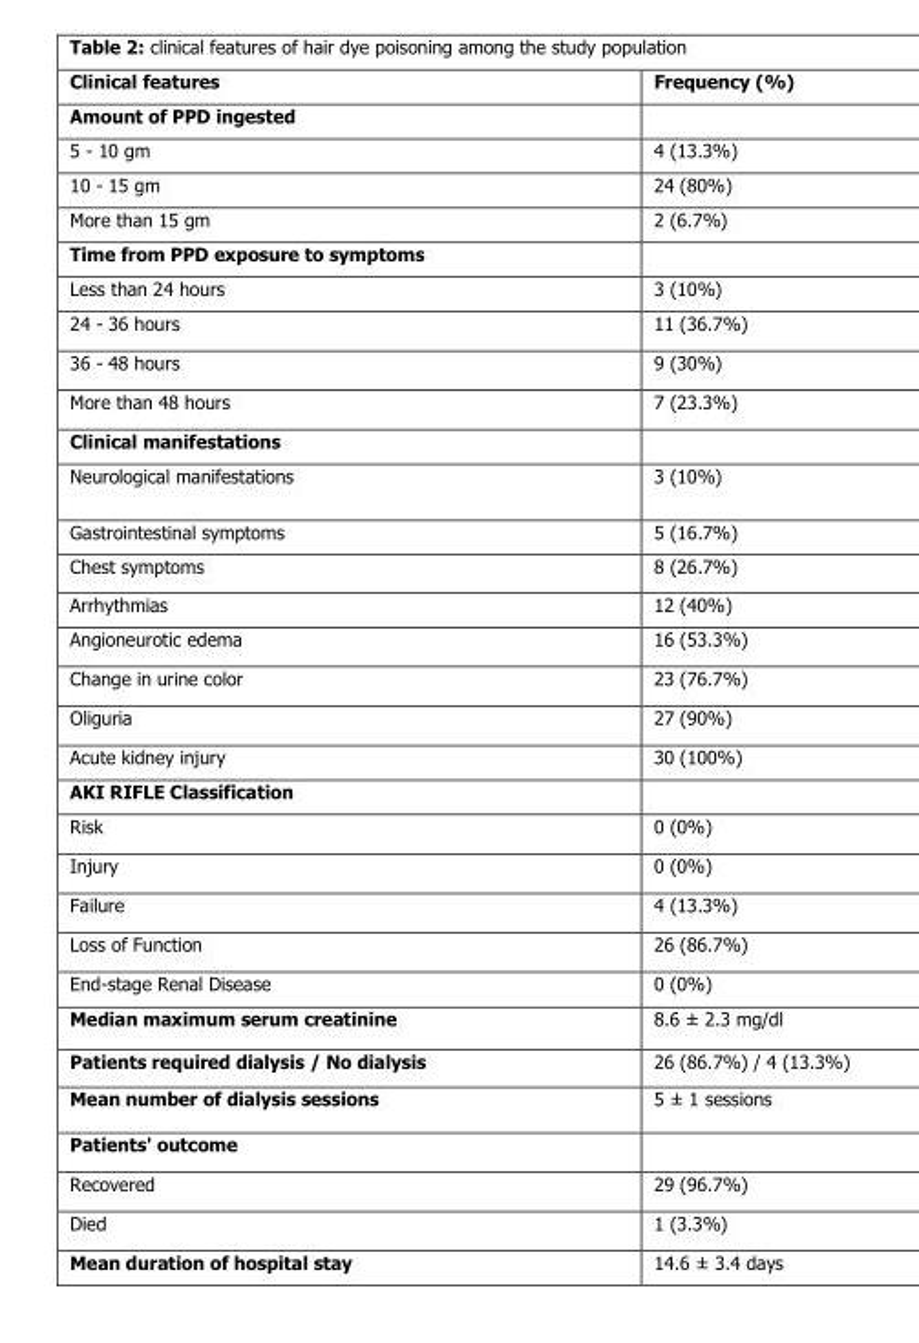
<table><thead><tr><td>Clinical features</td><td>Frequency (%)</td></tr></thead><tbody><tr><td colspan="2">Amount of PPD ingested</td></tr><tr><td>5 - 10 gm</td><td>4 (13.3%)</td></tr><tr><td>10 - 15 gm</td><td>24 (80%)</td></tr><tr><td>More than 15 gm</td><td>2 (6.7%)</td></tr><tr><td colspan="2">Time from PPD exposure to symptoms</td></tr><tr><td>Less than 24 hours</td><td>3 (10%)</td></tr><tr><td>24 - 36 hours</td><td>11 (36.7%)</td></tr><tr><td>36 - 48 hours</td><td>9 (30%)</td></tr><tr><td>More than 48 hours</td><td>7 (23.3%)</td></tr><tr><td colspan="2">Clinical manifestations</td></tr><tr><td>Neurological manifestations</td><td>3 (10%)</td></tr><tr><td>Gastrointestinal symptoms</td><td>5 (16.7%)</td></tr><tr><td>Chest symptoms</td><td>8 (26.7%)</td></tr><tr><td>Arrhythmias</td><td>12 (40%)</td></tr><tr><td>Angioneurotic edema</td><td>16 (53.3%)</td></tr><tr><td>Change in urine color</td><td>23 (76.7%)</td></tr><tr><td>Oliguria</td><td>27 (90%)</td></tr><tr><td>Acute kidney injury</td><td>30 (100%)</td></tr><tr><td colspan="2">AKI RIFLE Classification</td></tr><tr><td>Risk</td><td>0 (0%)</td></tr><tr><td>Injury</td><td>0 (0%)</td></tr><tr><td>Failure</td><td>4 (13.3%)</td></tr><tr><td>Loss of Function</td><td>26 (86.7%)</td></tr><tr><td>End-stage Renal Disease</td><td>0 (0%)</td></tr><tr><td>Median maximum serum creatinine</td><td>8.6 ± 2.3 mg/dl</td></tr><tr><td>Patients required dialysis / No dialysis</td><td>26 (86.7%) / 4 (13.3%)</td></tr><tr><td>Mean number of dialysis sessions</td><td>5 ± 1 sessions</td></tr><tr><td colspan="2">Patients&#x27; outcome</td></tr><tr><td>Recovered</td><td>29 (96.7%)</td></tr><tr><td>Died</td><td>1 (3.3%)</td></tr><tr><td>Mean duration of hospital stay</td><td>14.6 ± 3.4 days</td></tr></tbody></table>